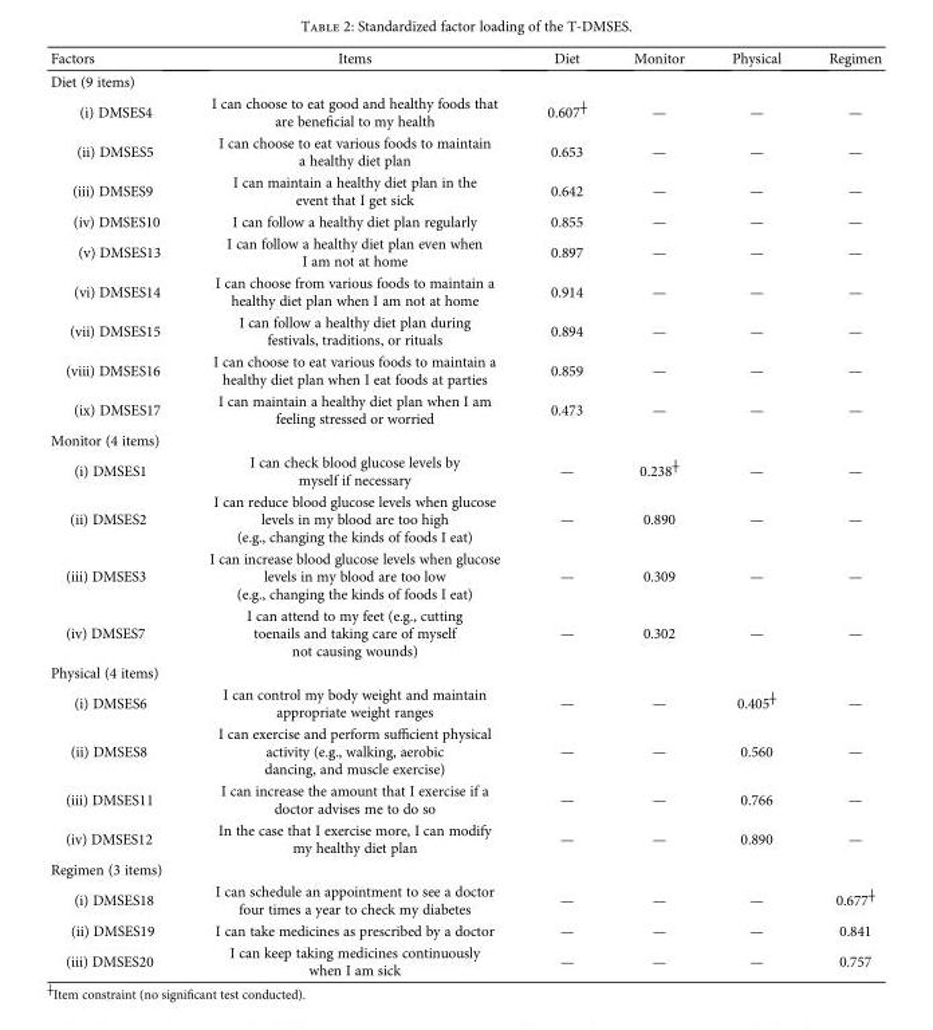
<table><thead><tr><td>Factors</td><td>Items</td><td>Diet</td><td>Monitor</td><td>Physical</td><td>Regimen</td></tr></thead><tbody><tr><td colspan="6">Diet (9 items)</td></tr><tr><td>(i) DMSES4</td><td>I can choose to eat good and healthy foods that are beneficial to my health</td><td>0.607<sup>┼</sup></td><td>—</td><td>—</td><td>—</td></tr><tr><td>(ii) DMSES5</td><td>I can choose to eat various foods to maintain a healthy diet plan</td><td>0.653</td><td>—</td><td>—</td><td>—</td></tr><tr><td>(iii) DMSES9</td><td>I can maintain a healthy diet plan in the event that I get sick</td><td>0.642</td><td>—</td><td>—</td><td>—</td></tr><tr><td>(iv) DMSES10</td><td>I can follow a healthy diet plan regularly</td><td>0.855</td><td>—</td><td>—</td><td>—</td></tr><tr><td>(v) DMSES13</td><td>I can follow a healthy diet plan even when I am not at home</td><td>0.897</td><td>—</td><td>—</td><td>—</td></tr><tr><td>(vi) DMSES14</td><td>I can choose from various foods to maintain a healthy diet plan when I am not at home</td><td>0.914</td><td>—</td><td>—</td><td>—</td></tr><tr><td>(vii) DMSES15</td><td>I can follow a healthy diet plan during festivals, traditions, or rituals</td><td>0.894</td><td>—</td><td>—</td><td>—</td></tr><tr><td>(viii) DMSES16</td><td>I can choose to eat various foods to maintain a healthy diet plan when I eat foods at parties</td><td>0.859</td><td>—</td><td>—</td><td>—</td></tr><tr><td>(ix) DMSES17</td><td>I can maintain a healthy diet plan when I am feeling stressed or worried</td><td>0.473</td><td>—</td><td>—</td><td>—</td></tr><tr><td colspan="6">Monitor (4 items)</td></tr><tr><td>(i) DMSES1</td><td>I can check blood glucose levels by myself if necessary</td><td>—</td><td>0.238<sup>┼</sup></td><td>—</td><td>—</td></tr><tr><td>(ii) DMSES2</td><td>I can reduce blood glucose levels when glucose levels in my blood are too high (e.g., changing the kinds of foods I eat)</td><td>—</td><td>0.890</td><td>—</td><td>—</td></tr><tr><td>(iii) DMSES3</td><td>I can increase blood glucose levels when glucose levels in my blood are too low (e.g., changing the kinds of foods I eat)</td><td>—</td><td>0.309</td><td>—</td><td>—</td></tr><tr><td>(iv) DMSES7</td><td>I can attend to my feet (e.g., cutting toenails and taking care of myself not causing wounds)</td><td>—</td><td>0.302</td><td>—</td><td>—</td></tr><tr><td colspan="6">Physical (4 items)</td></tr><tr><td>(i) DMSES6</td><td>I can control my body weight and maintain appropriate weight ranges</td><td>—</td><td>—</td><td>0.405<sup>┼</sup></td><td>—</td></tr><tr><td>(ii) DMSES8</td><td>I can exercise and perform sufficient physical activity (e.g., walking, aerobic dancing, and muscle exercise)</td><td>—</td><td>—</td><td>0.560</td><td>—</td></tr><tr><td>(iii) DMSES11</td><td>I can increase the amount that I exercise if a doctor advises me to do so</td><td>—</td><td>—</td><td>0.766</td><td>—</td></tr><tr><td>(iv) DMSES12</td><td>In the case that I exercise more, I can modify my healthy diet plan</td><td>—</td><td>—</td><td>0.890</td><td>—</td></tr><tr><td colspan="6">Regimen (3 items)</td></tr><tr><td>(i) DMSES18</td><td>I can schedule an appointment to see a doctor four times a year to check my diabetes</td><td>—</td><td>—</td><td>—</td><td>0.677<sup>┼</sup></td></tr><tr><td>(ii) DMSES19</td><td>I can take medicines as prescribed by a doctor</td><td>—</td><td>—</td><td>—</td><td>0.841</td></tr><tr><td>(iii) DMSES20</td><td>I can keep taking medicines continuously when I am sick</td><td>—</td><td>—</td><td>—</td><td>0.757</td></tr></tbody></table>